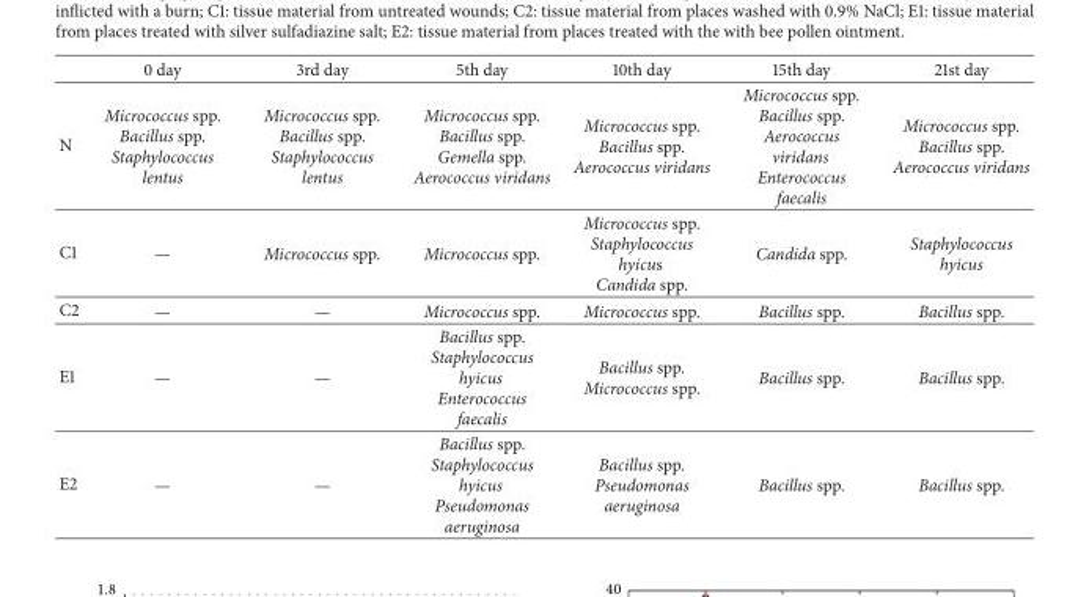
<table><thead><tr><td></td><td>0 day</td><td>3rd day</td><td>5th day</td><td>10th day</td><td>15th day</td><td>21st day</td></tr></thead><tbody><tr><td>N</td><td>Micrococcus spp. Bacillus spp. Staphylococcus lentus</td><td>Micrococcus spp. Bacillus spp. Staphylococcus lentus</td><td>Micrococcus spp. Bacillus spp. Gemella spp. Aerococcus viridans</td><td>Micrococcus spp. Bacillus spp. Aerococcus viridans</td><td>Micrococcus spp. Bacillus spp. Aerococcus viridans Enterococcus faecalis</td><td>Micrococcus spp. Bacillus spp. Aerococcus viridans</td></tr><tr><td>C1</td><td>—</td><td>Micrococcus spp.</td><td>Micrococcus spp.</td><td>Micrococcus spp. Staphylococcus hyicus Candida spp.</td><td>Candida spp.</td><td>Staphylococcus hyicus</td></tr><tr><td>C2</td><td>—</td><td>—</td><td>Micrococcus spp.</td><td>Micrococcus spp.</td><td>Bacillus spp.</td><td>Bacillus spp.</td></tr><tr><td>E1</td><td>—</td><td>—</td><td>Bacillus spp. Staphylococcus hyicus Enterococcus faecalis</td><td>Bacillus spp. Micrococcus spp.</td><td>Bacillus spp.</td><td>Bacillus spp.</td></tr><tr><td>E2</td><td>—</td><td>—</td><td>Bacillus spp. Staphylococcus hyicus Pseudomonas aeruginosa</td><td>Bacillus spp. Pseudomonas aeruginosa</td><td>Bacillus spp.</td><td>Bacillus spp.</td></tr></tbody></table>